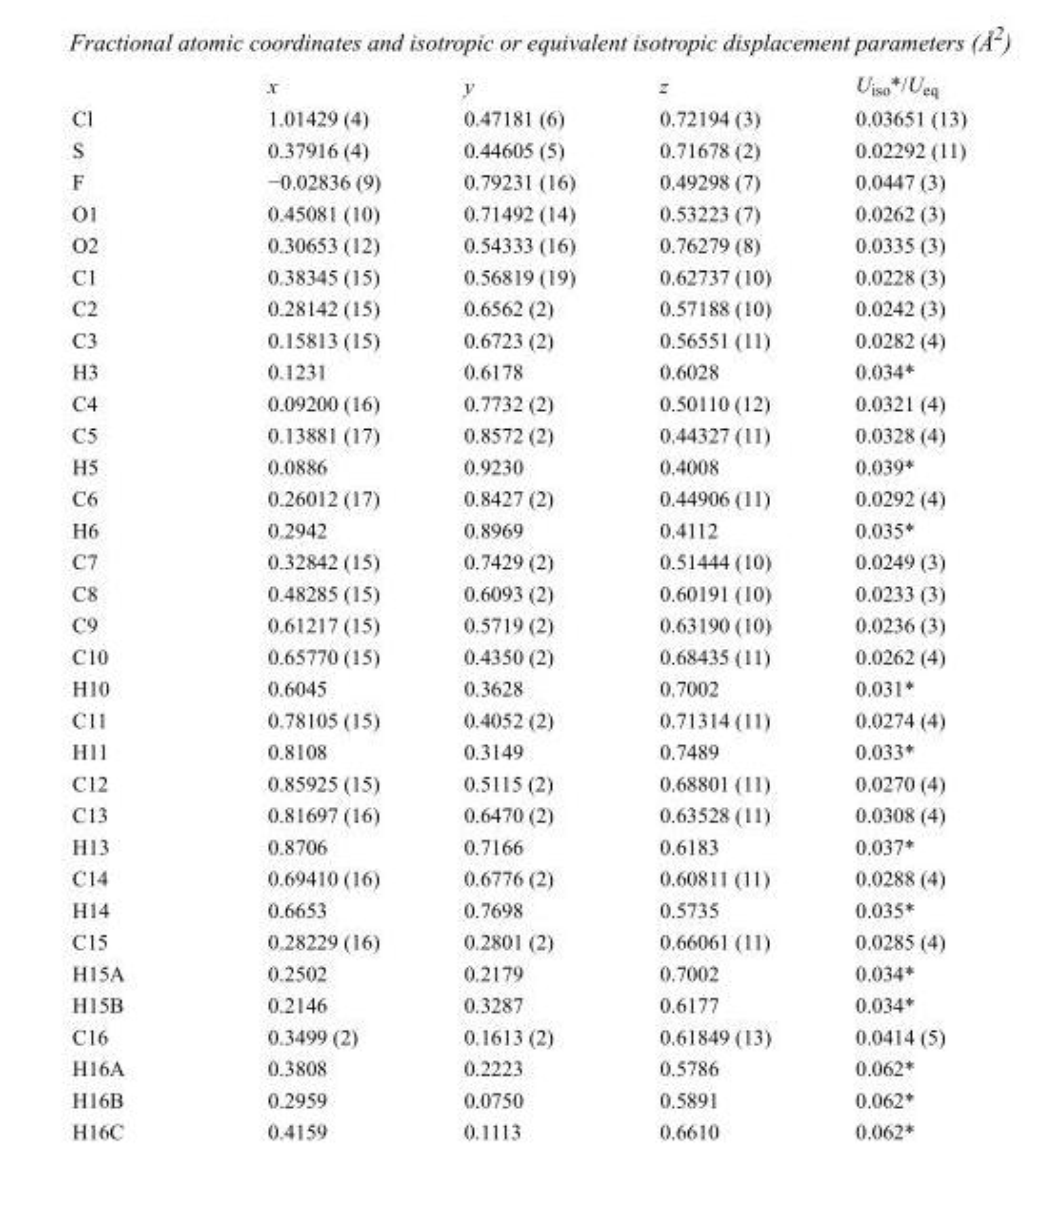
<table><thead><tr><td></td><td>x</td><td>y</td><td>z</td><td>U<sub>iso</sub>*/U<sub>eq</sub></td></tr></thead><tbody><tr><td>Cl</td><td>1.01429 (4)</td><td>0.47181 (6)</td><td>0.72194 (3)</td><td>0.03651 (13)</td></tr><tr><td>S</td><td>0.37916 (4)</td><td>0.44605 (5)</td><td>0.71678 (2)</td><td>0.02292 (11)</td></tr><tr><td>F</td><td>−0.02836 (9)</td><td>0.79231 (16)</td><td>0.49298 (7)</td><td>0.0447 (3)</td></tr><tr><td>O1</td><td>0.45081 (10)</td><td>0.71492 (14)</td><td>0.53223 (7)</td><td>0.0262 (3)</td></tr><tr><td>O2</td><td>0.30653 (12)</td><td>0.54333 (16)</td><td>0.76279 (8)</td><td>0.0335 (3)</td></tr><tr><td>C1</td><td>0.38345 (15)</td><td>0.56819 (19)</td><td>0.62737 (10)</td><td>0.0228 (3)</td></tr><tr><td>C2</td><td>0.28142 (15)</td><td>0.6562 (2)</td><td>0.57188 (10)</td><td>0.0242 (3)</td></tr><tr><td>C3</td><td>0.15813 (15)</td><td>0.6723 (2)</td><td>0.56551 (11)</td><td>0.0282 (4)</td></tr><tr><td>H3</td><td>0.1231</td><td>0.6178</td><td>0.6028</td><td>0.034*</td></tr><tr><td>C4</td><td>0.09200 (16)</td><td>0.7732 (2)</td><td>0.50110 (12)</td><td>0.0321 (4)</td></tr><tr><td>C5</td><td>0.13881 (17)</td><td>0.8572 (2)</td><td>0.44327 (11)</td><td>0.0328 (4)</td></tr><tr><td>H5</td><td>0.0886</td><td>0.9230</td><td>0.4008</td><td>0.039*</td></tr><tr><td>C6</td><td>0.26012 (17)</td><td>0.8427 (2)</td><td>0.44906 (11)</td><td>0.0292 (4)</td></tr><tr><td>H6</td><td>0.2942</td><td>0.8969</td><td>0.4112</td><td>0.035*</td></tr><tr><td>C7</td><td>0.32842 (15)</td><td>0.7429 (2)</td><td>0.51444 (10)</td><td>0.0249 (3)</td></tr><tr><td>C8</td><td>0.48285 (15)</td><td>0.6093 (2)</td><td>0.60191 (10)</td><td>0.0233 (3)</td></tr><tr><td>C9</td><td>0.61217 (15)</td><td>0.5719 (2)</td><td>0.63190 (10)</td><td>0.0236 (3)</td></tr><tr><td>C10</td><td>0.65770 (15)</td><td>0.4350 (2)</td><td>0.68435 (11)</td><td>0.0262 (4)</td></tr><tr><td>H10</td><td>0.6045</td><td>0.3628</td><td>0.7002</td><td>0.031*</td></tr><tr><td>C11</td><td>0.78105 (15)</td><td>0.4052 (2)</td><td>0.71314 (11)</td><td>0.0274 (4)</td></tr><tr><td>H11</td><td>0.8108</td><td>0.3149</td><td>0.7489</td><td>0.033*</td></tr><tr><td>C12</td><td>0.85925 (15)</td><td>0.5115 (2)</td><td>0.68801 (11)</td><td>0.0270 (4)</td></tr><tr><td>C13</td><td>0.81697 (16)</td><td>0.6470 (2)</td><td>0.63528 (11)</td><td>0.0308 (4)</td></tr><tr><td>H13</td><td>0.8706</td><td>0.7166</td><td>0.6183</td><td>0.037*</td></tr><tr><td>C14</td><td>0.69410 (16)</td><td>0.6776 (2)</td><td>0.60811 (11)</td><td>0.0288 (4)</td></tr><tr><td>H14</td><td>0.6653</td><td>0.7698</td><td>0.5735</td><td>0.035*</td></tr><tr><td>C15</td><td>0.28229 (16)</td><td>0.2801 (2)</td><td>0.66061 (11)</td><td>0.0285 (4)</td></tr><tr><td>H15A</td><td>0.2502</td><td>0.2179</td><td>0.7002</td><td>0.034*</td></tr><tr><td>H15B</td><td>0.2146</td><td>0.3287</td><td>0.6177</td><td>0.034*</td></tr><tr><td>C16</td><td>0.3499 (2)</td><td>0.1613 (2)</td><td>0.61849 (13)</td><td>0.0414 (5)</td></tr><tr><td>H16A</td><td>0.3808</td><td>0.2223</td><td>0.5786</td><td>0.062*</td></tr><tr><td>H16B</td><td>0.2959</td><td>0.0750</td><td>0.5891</td><td>0.062*</td></tr><tr><td>H16C</td><td>0.4159</td><td>0.1113</td><td>0.6610</td><td>0.062*</td></tr></tbody></table>